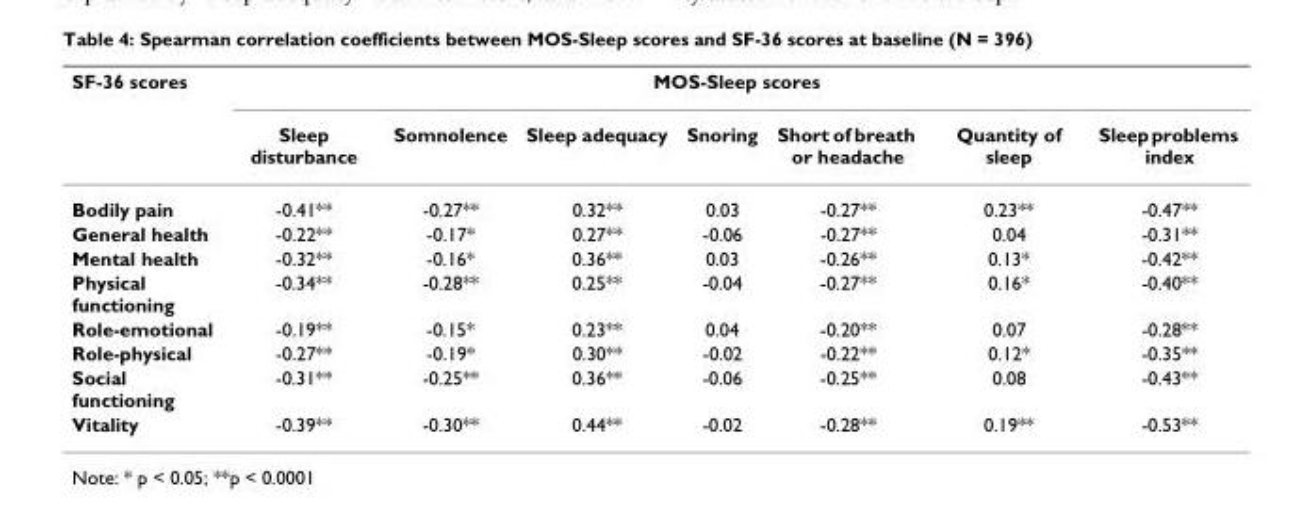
<table><thead><tr><td rowspan="2">SF-36 scores</td><td colspan="7">MOS-Sleep scores</td></tr><tr><td>Sleep disturbance</td><td>Somnolence</td><td>Sleep adequacy</td><td>Snoring</td><td>Short of breath or headache</td><td>Quantity of sleep</td><td>Sleep problems index</td></tr></thead><tbody><tr><td>Bodily pain</td><td>-0.41**</td><td>-0.27**</td><td>0.32**</td><td>0.03</td><td>-0.27**</td><td>0.23**</td><td>-0.47**</td></tr><tr><td>General health</td><td>-0.22**</td><td>-0.17*</td><td>0.27**</td><td>-0.06</td><td>-0.27**</td><td>0.04</td><td>-0.31**</td></tr><tr><td>Mental health</td><td>-0.32**</td><td>-0.16*</td><td>0.36**</td><td>0.03</td><td>-0.26**</td><td>0.13*</td><td>-0.42**</td></tr><tr><td>Physical functioning</td><td>-0.34**</td><td>-0.28**</td><td>0.25**</td><td>-0.04</td><td>-0.27**</td><td>0.16*</td><td>-0.40**</td></tr><tr><td>Role-emotional</td><td>-0.19**</td><td>-0.15*</td><td>0.23**</td><td>0.04</td><td>-0.20**</td><td>0.07</td><td>-0.28**</td></tr><tr><td>Role-physical</td><td>-0.27**</td><td>-0.19*</td><td>0.30**</td><td>-0.02</td><td>-0.22**</td><td>0.12*</td><td>-0.35**</td></tr><tr><td>Social functioning</td><td>-0.31**</td><td>-0.25**</td><td>0.36**</td><td>-0.06</td><td>-0.25**</td><td>0.08</td><td>-0.43**</td></tr><tr><td>Vitality</td><td>-0.39**</td><td>-0.30**</td><td>0.44**</td><td>-0.02</td><td>-0.28**</td><td>0.19**</td><td>-0.53**</td></tr></tbody></table>